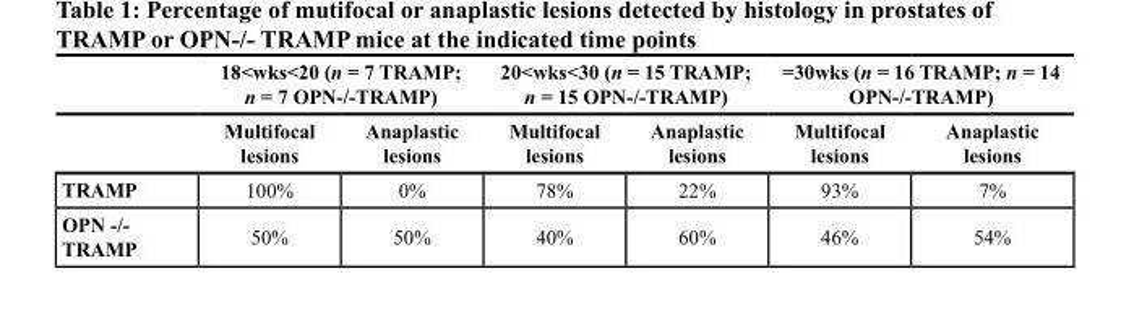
<table><thead><tr><td rowspan="2"></td><td colspan="2">18&lt;wks&lt;20 (n = 7 TRAMP; n = 7 OPN-/-TRAMP)</td><td colspan="2">20&lt;wks&lt;30 (n = 15 TRAMP; n = 15 OPN-/-TRAMP)</td><td colspan="2">=30wks (n = 16 TRAMP; n = 14 OPN-/-TRAMP)</td></tr><tr><td>Multifocal lesions</td><td>Anaplastic lesions</td><td>Multifocal lesions</td><td>Anaplastic lesions</td><td>Multifocal lesions</td><td>Anaplastic lesions</td></tr></thead><tbody><tr><td>TRAMP</td><td>100%</td><td>0%</td><td>78%</td><td>22%</td><td>93%</td><td>7%</td></tr><tr><td>OPN -/- TRAMP</td><td>50%</td><td>50%</td><td>40%</td><td>60%</td><td>46%</td><td>54%</td></tr></tbody></table>